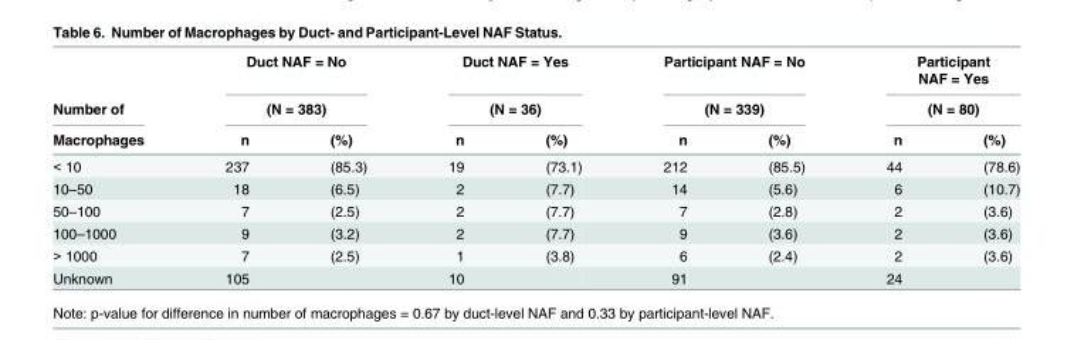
<table><thead><tr><td rowspan="3">Number of Macrophages</td><td rowspan="2" colspan="2">Duct NAF = No (N = 383)</td><td rowspan="2" colspan="2">Duct NAF = Yes (N = 36)</td><td rowspan="2" colspan="2">Participant NAF = No (N = 339)</td><td rowspan="2" colspan="2">Participant NAF = Yes (N = 80)</td></tr><tr></tr><tr><td>n</td><td>(%)</td><td>n</td><td>(%)</td><td>n</td><td>(%)</td><td>n</td><td>(%)</td></tr></thead><tbody><tr><td>&lt; 10</td><td>237</td><td>(85.3)</td><td>19</td><td>(73.1)</td><td>212</td><td>(85.5)</td><td>44</td><td>(78.6)</td></tr><tr><td>10–50</td><td>18</td><td>(6.5)</td><td>2</td><td>(7.7)</td><td>14</td><td>(5.6)</td><td>6</td><td>(10.7)</td></tr><tr><td>50–100</td><td>7</td><td>(2.5)</td><td>2</td><td>(7.7)</td><td>7</td><td>(2.8)</td><td>2</td><td>(3.6)</td></tr><tr><td>100–1000</td><td>9</td><td>(3.2)</td><td>2</td><td>(7.7)</td><td>9</td><td>(3.6)</td><td>2</td><td>(3.6)</td></tr><tr><td>&gt; 1000</td><td>7</td><td>(2.5)</td><td>1</td><td>(3.8)</td><td>6</td><td>(2.4)</td><td>2</td><td>(3.6)</td></tr><tr><td>Unknown</td><td>105</td><td></td><td>10</td><td></td><td>91</td><td></td><td>24</td><td></td></tr></tbody></table>